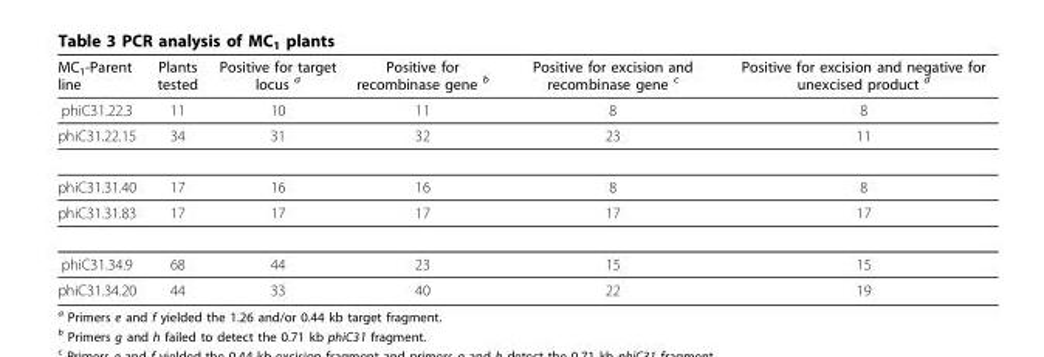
<table><thead><tr><td>MC1-Parent line</td><td>Plants tested</td><td>Positive for target locus a</td><td>Positive for recombinase gene b</td><td>Positive for excision and recombinase gene c</td><td>Positive for excision and negative for unexcised product d</td></tr></thead><tbody><tr><td>phiC31.22.3</td><td>11</td><td>10</td><td>11</td><td>8</td><td>8</td></tr><tr><td>phiC31.22.15</td><td>34</td><td>31</td><td>32</td><td>23</td><td>11</td></tr><tr><td>phiC31.31.40</td><td>17</td><td>16</td><td>16</td><td>8</td><td>8</td></tr><tr><td>phiC31.31.83</td><td>17</td><td>17</td><td>17</td><td>17</td><td>17</td></tr><tr><td>phiC31.34.9</td><td>68</td><td>44</td><td>23</td><td>15</td><td>15</td></tr><tr><td>phiC31.34.20</td><td>44</td><td>33</td><td>40</td><td>22</td><td>19</td></tr></tbody></table>